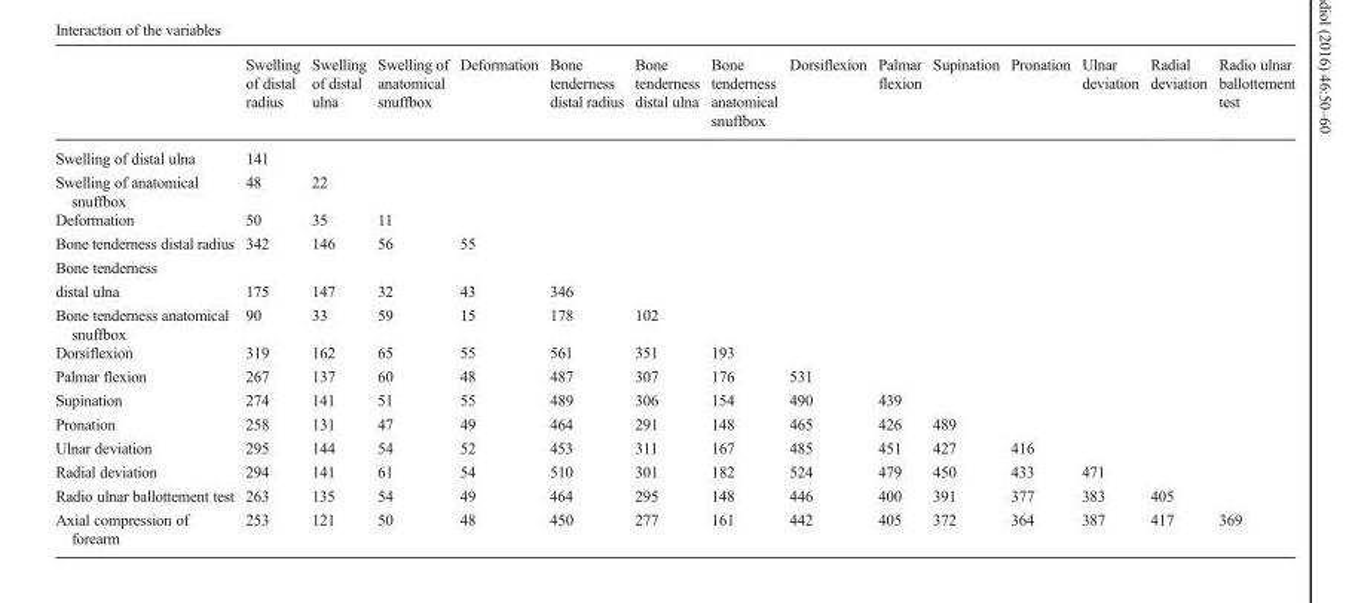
<table><thead><tr><td></td><td>Swelling of distal radius</td><td>Swelling of distal ulna</td><td>Swelling of anatomical snuffbox</td><td>Deformation</td><td>Bone tenderness distal radius</td><td>Bone tenderness distal ulna</td><td>Bone tenderness anatomical snuffbox</td><td>Dorsiflexion</td><td>Palmar flexion</td><td>Supination</td><td>Pronation</td><td>Ulnar deviation</td><td>Radial deviation</td><td>Radio ulnar ballottement test</td></tr></thead><tbody><tr><td>Swelling of distal ulna</td><td>141</td><td></td><td></td><td></td><td></td><td></td><td></td><td></td><td></td><td></td><td></td><td></td><td></td><td></td></tr><tr><td>Swelling of anatomical snuffbox</td><td>48</td><td>22</td><td></td><td></td><td></td><td></td><td></td><td></td><td></td><td></td><td></td><td></td><td></td><td></td></tr><tr><td>Deformation</td><td>50</td><td>35</td><td>11</td><td></td><td></td><td></td><td></td><td></td><td></td><td></td><td></td><td></td><td></td><td></td></tr><tr><td>Bone tenderness distal radius</td><td>342</td><td>146</td><td>56</td><td>55</td><td></td><td></td><td></td><td></td><td></td><td></td><td></td><td></td><td></td><td></td></tr><tr><td colspan="15">Bone tenderness</td></tr><tr><td>distal ulna</td><td>175</td><td>147</td><td>32</td><td>43</td><td>346</td><td></td><td></td><td></td><td></td><td></td><td></td><td></td><td></td><td></td></tr><tr><td>Bone tenderness anatomical snuffbox</td><td>90</td><td>33</td><td>59</td><td>15</td><td>178</td><td>102</td><td></td><td></td><td></td><td></td><td></td><td></td><td></td><td></td></tr><tr><td>Dorsiflexion</td><td>319</td><td>162</td><td>65</td><td>55</td><td>561</td><td>351</td><td>193</td><td></td><td></td><td></td><td></td><td></td><td></td><td></td></tr><tr><td>Palmar flexion</td><td>267</td><td>137</td><td>60</td><td>48</td><td>487</td><td>307</td><td>176</td><td>531</td><td></td><td></td><td></td><td></td><td></td><td></td></tr><tr><td>Supination</td><td>274</td><td>141</td><td>51</td><td>55</td><td>489</td><td>306</td><td>154</td><td>490</td><td>439</td><td></td><td></td><td></td><td></td><td></td></tr><tr><td>Pronation</td><td>258</td><td>131</td><td>47</td><td>49</td><td>464</td><td>291</td><td>148</td><td>465</td><td>426</td><td>489</td><td></td><td></td><td></td><td></td></tr><tr><td>Ulnar deviation</td><td>295</td><td>144</td><td>54</td><td>52</td><td>453</td><td>311</td><td>167</td><td>485</td><td>451</td><td>427</td><td>416</td><td></td><td></td><td></td></tr><tr><td>Radial deviation</td><td>294</td><td>141</td><td>61</td><td>54</td><td>510</td><td>301</td><td>182</td><td>524</td><td>479</td><td>450</td><td>433</td><td>471</td><td></td><td></td></tr><tr><td>Radio ulnar ballottement test</td><td>263</td><td>135</td><td>54</td><td>49</td><td>464</td><td>295</td><td>148</td><td>446</td><td>400</td><td>391</td><td>377</td><td>383</td><td>405</td><td></td></tr><tr><td>Axial compression of forearm</td><td>253</td><td>121</td><td>50</td><td>48</td><td>450</td><td>277</td><td>161</td><td>442</td><td>405</td><td>372</td><td>364</td><td>387</td><td>417</td><td>369</td></tr></tbody></table>